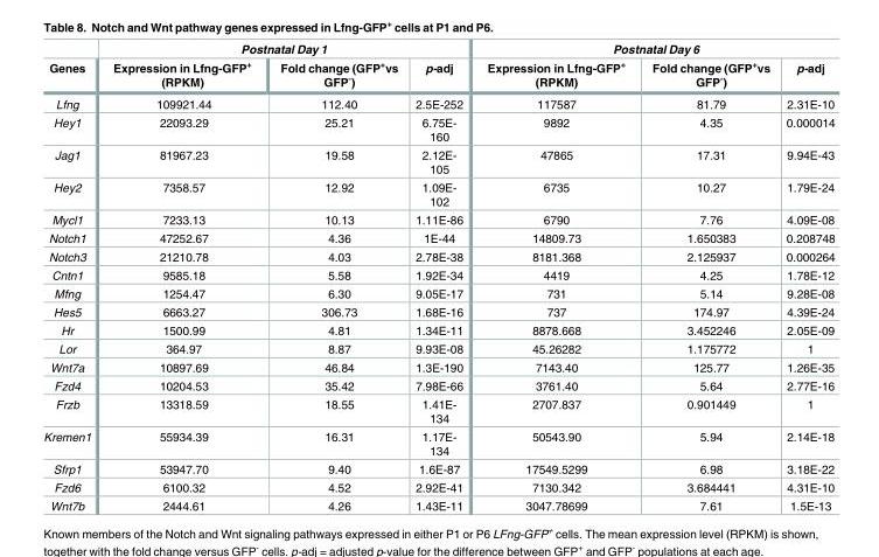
<table><thead><tr><td rowspan="2">Genes</td><td colspan="3">Postnatal Day 1</td><td colspan="3">Postnatal Day 6</td></tr><tr><td>Expression in Lfng-GFP<sup>+</sup> (RPKM)</td><td>Fold change (GFP<sup>+</sup>vs GFP<sup>-</sup>)</td><td>p-adj</td><td>Expression in Lfng-GFP<sup>+</sup> (RPKM)</td><td>Fold change (GFP<sup>+</sup>vs GFP<sup>-</sup>)</td><td>p-adj</td></tr></thead><tbody><tr><td>Lfng</td><td>109921.44</td><td>112.40</td><td>2.5E-252</td><td>117587</td><td>81.79</td><td>2.31E-10</td></tr><tr><td>Hey1</td><td>22093.29</td><td>25.21</td><td>6.75E- 160</td><td>9892</td><td>4.35</td><td>0.000014</td></tr><tr><td>Jag1</td><td>81967.23</td><td>19.58</td><td>2.12E- 105</td><td>47865</td><td>17.31</td><td>9.94E-43</td></tr><tr><td>Hey2</td><td>7358.57</td><td>12.92</td><td>1.09E- 102</td><td>6735</td><td>10.27</td><td>1.79E-24</td></tr><tr><td>Mycl1</td><td>7233.13</td><td>10.13</td><td>1.11E-86</td><td>6790</td><td>7.76</td><td>4.09E-08</td></tr><tr><td>Notch1</td><td>47252.67</td><td>4.36</td><td>1E-44</td><td>14809.73</td><td>1.650383</td><td>0.208748</td></tr><tr><td>Notch3</td><td>21210.78</td><td>4.03</td><td>2.78E-38</td><td>8181.368</td><td>2.125937</td><td>0.000264</td></tr><tr><td>Cntn1</td><td>9585.18</td><td>5.58</td><td>1.92E-34</td><td>4419</td><td>4.25</td><td>1.78E-12</td></tr><tr><td>Mfng</td><td>1254.47</td><td>6.30</td><td>9.05E-17</td><td>731</td><td>5.14</td><td>9.28E-08</td></tr><tr><td>Hes5</td><td>6663.27</td><td>306.73</td><td>1.68E-16</td><td>737</td><td>174.97</td><td>4.39E-24</td></tr><tr><td>Hr</td><td>1500.99</td><td>4.81</td><td>1.34E-11</td><td>8878.668</td><td>3.452246</td><td>2.05E-09</td></tr><tr><td>Lor</td><td>364.97</td><td>8.87</td><td>9.93E-08</td><td>45.26282</td><td>1.175772</td><td>1</td></tr><tr><td>Wnt7a</td><td>10897.69</td><td>46.84</td><td>1.3E-190</td><td>7143.40</td><td>125.77</td><td>1.26E-35</td></tr><tr><td>Fzd4</td><td>10204.53</td><td>35.42</td><td>7.98E-66</td><td>3761.40</td><td>5.64</td><td>2.77E-16</td></tr><tr><td>Frzb</td><td>13318.59</td><td>18.55</td><td>1.41E- 134</td><td>2707.837</td><td>0.901449</td><td>1</td></tr><tr><td>Kremen1</td><td>55934.39</td><td>16.31</td><td>1.17E- 134</td><td>50543.90</td><td>5.94</td><td>2.14E-18</td></tr><tr><td>Sfrp1</td><td>53947.70</td><td>9.40</td><td>1.6E-87</td><td>17549.5299</td><td>6.98</td><td>3.18E-22</td></tr><tr><td>Fzd6</td><td>6100.32</td><td>4.52</td><td>2.92E-41</td><td>7130.342</td><td>3.684441</td><td>4.31E-10</td></tr><tr><td>Wnt7b</td><td>2444.61</td><td>4.26</td><td>1.43E-11</td><td>3047.78699</td><td>7.61</td><td>1.5E-13</td></tr></tbody></table>